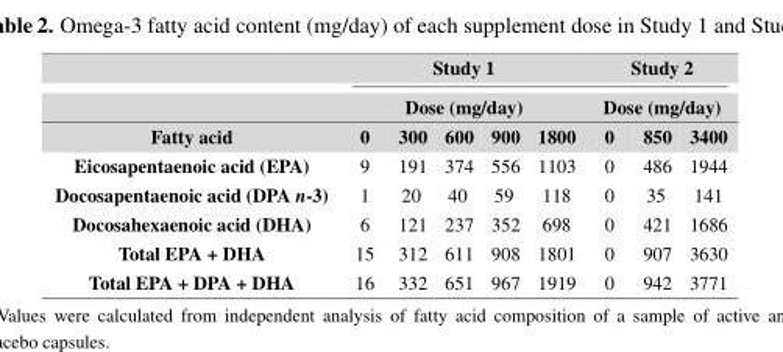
<table><thead><tr><td rowspan="3">Fatty acid</td><td rowspan="2" colspan="5">Study 1 Dose (mg/day)</td><td rowspan="2" colspan="3">Study 2 Dose (mg/day)</td></tr><tr></tr><tr><td>0</td><td>300</td><td>600</td><td>900</td><td>1800</td><td>0</td><td>850</td><td>3400</td></tr></thead><tbody><tr><td>Eicosapentaenoic acid (EPA)</td><td>9</td><td>191</td><td>374</td><td>556</td><td>1103</td><td>0</td><td>486</td><td>1944</td></tr><tr><td>Docosapentaenoic acid (DPA n-3)</td><td>1</td><td>20</td><td>40</td><td>59</td><td>118</td><td>0</td><td>35</td><td>141</td></tr><tr><td>Docosahexaenoic acid (DHA)</td><td>6</td><td>121</td><td>237</td><td>352</td><td>698</td><td>0</td><td>421</td><td>1686</td></tr><tr><td>Total EPA + DHA</td><td>15</td><td>312</td><td>611</td><td>908</td><td>1801</td><td>0</td><td>907</td><td>3630</td></tr><tr><td>Total EPA + DPA + DHA</td><td>16</td><td>332</td><td>651</td><td>967</td><td>1919</td><td>0</td><td>942</td><td>3771</td></tr></tbody></table>